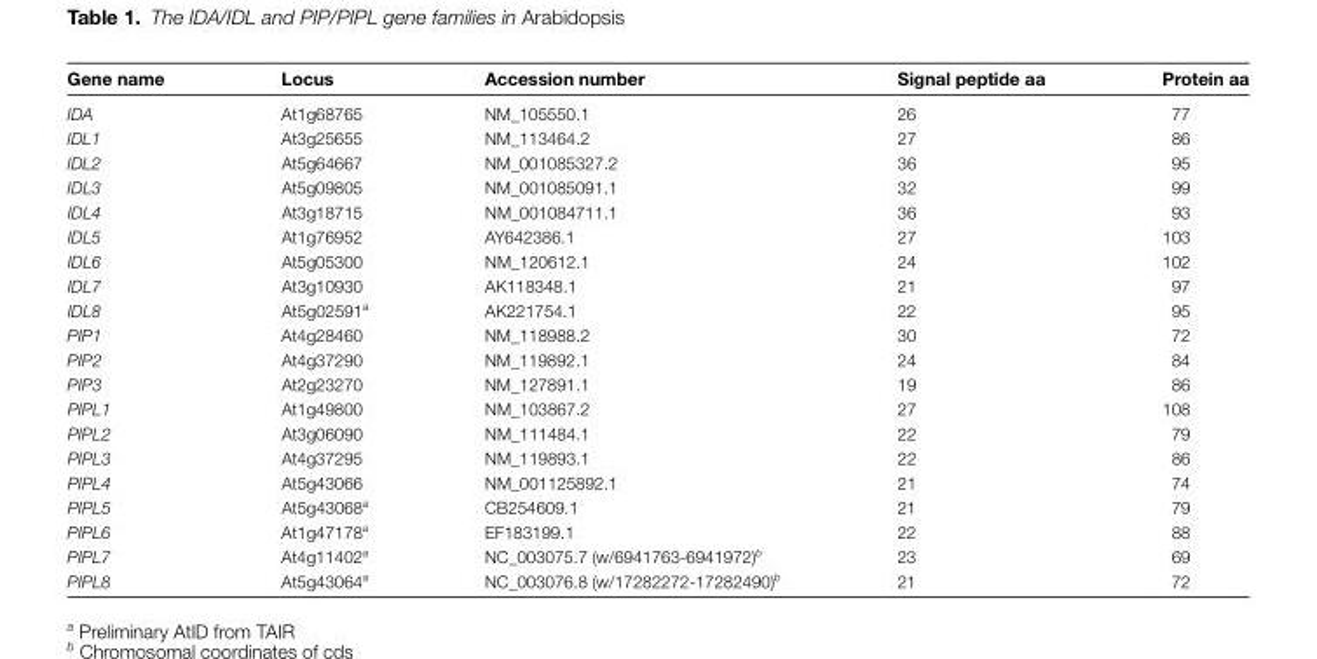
<table><thead><tr><td>Gene name</td><td>Locus</td><td>Accession number</td><td>Signal peptide aa</td><td>Protein aa</td></tr></thead><tbody><tr><td>IDA</td><td>At1g68765</td><td>NM_105550.1</td><td>26</td><td>77</td></tr><tr><td>IDL1</td><td>At3g25655</td><td>NM_113464.2</td><td>27</td><td>86</td></tr><tr><td>IDL2</td><td>At5g64667</td><td>NM_001085327.2</td><td>36</td><td>95</td></tr><tr><td>IDL3</td><td>At5g09805</td><td>NM_001085091.1</td><td>32</td><td>99</td></tr><tr><td>IDL4</td><td>At3g18715</td><td>NM_001084711.1</td><td>36</td><td>93</td></tr><tr><td>IDL5</td><td>At1g76952</td><td>AY642386.1</td><td>27</td><td>103</td></tr><tr><td>IDL6</td><td>At5g05300</td><td>NM_120612.1</td><td>24</td><td>102</td></tr><tr><td>IDL7</td><td>At3g10930</td><td>AK118348.1</td><td>21</td><td>97</td></tr><tr><td>IDL8</td><td>At5g02591<sup>a</sup></td><td>AK221754.1</td><td>22</td><td>95</td></tr><tr><td>PIP1</td><td>At4g28460</td><td>NM_118988.2</td><td>30</td><td>72</td></tr><tr><td>PIP2</td><td>At4g37290</td><td>NM_119892.1</td><td>24</td><td>84</td></tr><tr><td>PIP3</td><td>At2g23270</td><td>NM_127891.1</td><td>19</td><td>86</td></tr><tr><td>PIPL1</td><td>At1g49800</td><td>NM_103867.2</td><td>27</td><td>108</td></tr><tr><td>PIPL2</td><td>At3g06090</td><td>NM_111484.1</td><td>22</td><td>79</td></tr><tr><td>PIPL3</td><td>At4g37295</td><td>NM_119893.1</td><td>22</td><td>86</td></tr><tr><td>PIPL4</td><td>At5g43066</td><td>NM_001125892.1</td><td>21</td><td>74</td></tr><tr><td>PIPL5</td><td>At5g43068<sup>a</sup></td><td>CB254609.1</td><td>21</td><td>79</td></tr><tr><td>PIPL6</td><td>At1g47178<sup>a</sup></td><td>EF183199.1</td><td>22</td><td>88</td></tr><tr><td>PIPL7</td><td>At4g11402<sup>a</sup></td><td>NC_003075.7 (w/6941763-6941972)<sup>b</sup></td><td>23</td><td>69</td></tr><tr><td>PIPL8</td><td>At5g43064<sup>a</sup></td><td>NC_003076.8 (w/17282272-17282490)<sup>b</sup></td><td>21</td><td>72</td></tr></tbody></table>